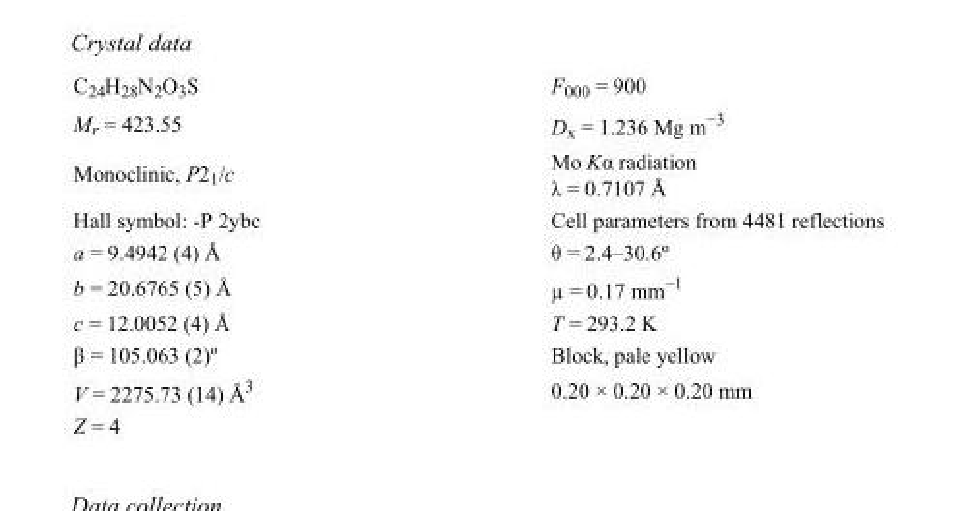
<table><tbody><tr><td>C<sub>24</sub>H<sub>28</sub>N<sub>2</sub>O<sub>3</sub>S</td><td>F000 = 900</td></tr><tr><td>M<sub>r</sub> = 423.55</td><td>D<sub>x</sub> = 1.236 Mg m<sup>−3</sup></td></tr><tr><td>Monoclinic, P2<sub>1</sub>/c</td><td>Mo Kα radiation λ = 0.7107 Å</td></tr><tr><td>Hall symbol: -P 2ybc</td><td>Cell parameters from 4481 reflections</td></tr><tr><td>a = 9.4942 (4) Å</td><td>θ = 2.4–30.6º</td></tr><tr><td>b = 20.6765 (5) Å</td><td>µ = 0.17 mm<sup>−1</sup></td></tr><tr><td>c = 12.0052 (4) Å</td><td>T = 293.2 K</td></tr><tr><td>β = 105.063 (2)º</td><td>Block, pale yellow</td></tr><tr><td>V = 2275.73 (14) Å<sup>3</sup></td><td>0.20 × 0.20 × 0.20 mm</td></tr><tr><td>Z = 4</td><td></td></tr></tbody></table>